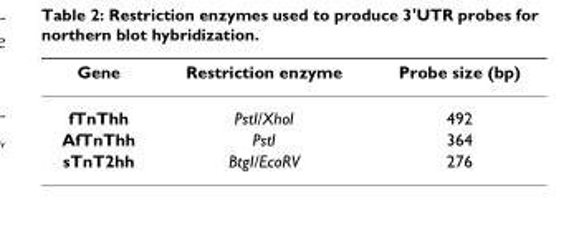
<table><thead><tr><td>Gene</td><td>Restriction enzyme</td><td>Probe size (bp)</td></tr></thead><tbody><tr><td>fTnThh</td><td>PstI/XhoI</td><td>492</td></tr><tr><td>AfTnThh</td><td>PstI</td><td>364</td></tr><tr><td>sTnT2hh</td><td>BtgI/EcoRV</td><td>276</td></tr></tbody></table>